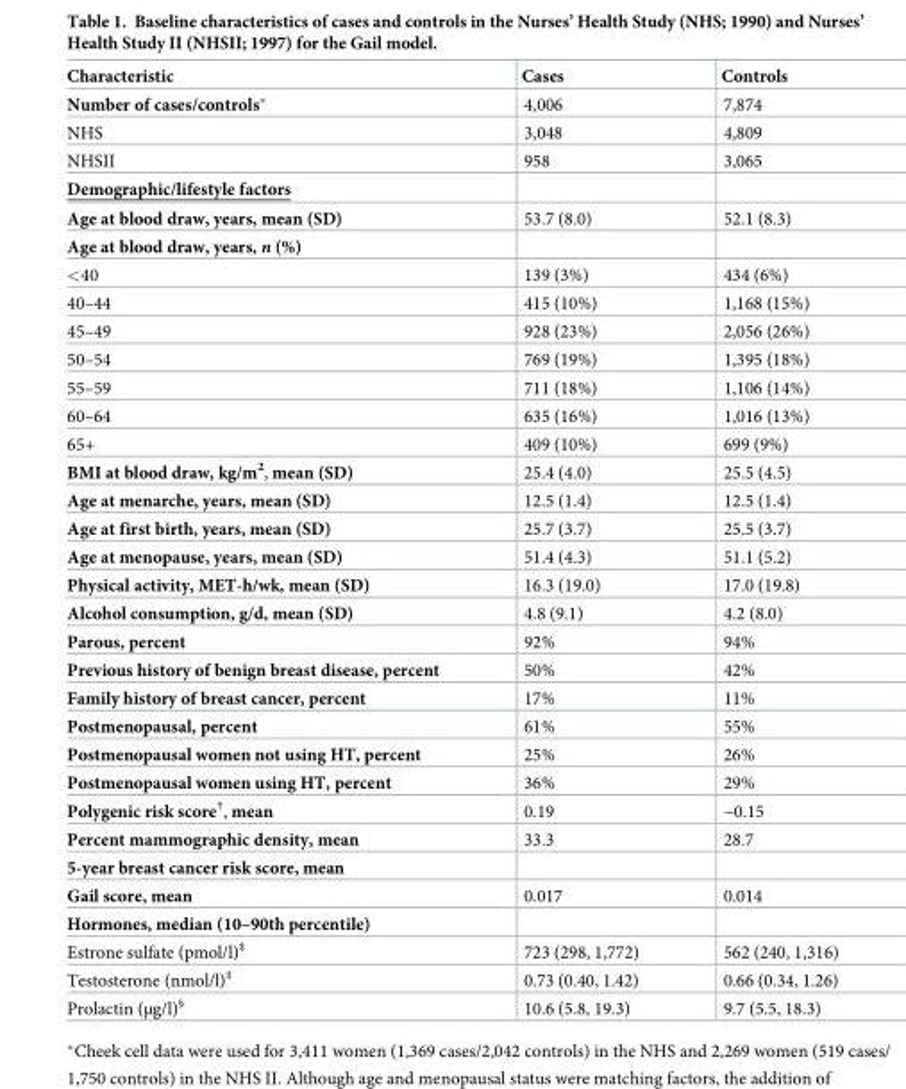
<table><thead><tr><td>Characteristic</td><td>Cases</td><td>Controls</td></tr></thead><tbody><tr><td>Number of cases/controls*</td><td>4,006</td><td>7,874</td></tr><tr><td>NHS</td><td>3,048</td><td>4,809</td></tr><tr><td>NHSII</td><td>958</td><td>3,065</td></tr><tr><td colspan="3">Demographic/lifestyle factors</td></tr><tr><td>Age at blood draw, years, mean (SD)</td><td>53.7 (8.0)</td><td>52.1 (8.3)</td></tr><tr><td colspan="3">Age at blood draw, years, n (%)</td></tr><tr><td>&lt;40</td><td>139 (3%)</td><td>434 (6%)</td></tr><tr><td>40–44</td><td>415 (10%)</td><td>1,168 (15%)</td></tr><tr><td>45–49</td><td>928 (23%)</td><td>2,056 (26%)</td></tr><tr><td>50–54</td><td>769 (19%)</td><td>1,395 (18%)</td></tr><tr><td>55–59</td><td>711 (18%)</td><td>1,106 (14%)</td></tr><tr><td>60–64</td><td>635 (16%)</td><td>1,016 (13%)</td></tr><tr><td>65+</td><td>409 (10%)</td><td>699 (9%)</td></tr><tr><td>BMI at blood draw, kg/m<sup>2</sup>, mean (SD)</td><td>25.4 (4.0)</td><td>25.5 (4.5)</td></tr><tr><td>Age at menarche, years, mean (SD)</td><td>12.5 (1.4)</td><td>12.5 (1.4)</td></tr><tr><td>Age at first birth, years, mean (SD)</td><td>25.7 (3.7)</td><td>25.5 (3.7)</td></tr><tr><td>Age at menopause, years, mean (SD)</td><td>51.4 (4.3)</td><td>51.1 (5.2)</td></tr><tr><td>Physical activity, MET-h/wk, mean (SD)</td><td>16.3 (19.0)</td><td>17.0 (19.8)</td></tr><tr><td>Alcohol consumption, g/d, mean (SD)</td><td>4.8 (9.1)</td><td>4.2 (8.0)</td></tr><tr><td>Parous, percent</td><td>92%</td><td>94%</td></tr><tr><td>Previous history of benign breast disease, percent</td><td>50%</td><td>42%</td></tr><tr><td>Family history of breast cancer, percent</td><td>17%</td><td>11%</td></tr><tr><td>Postmenopausal, percent</td><td>61%</td><td>55%</td></tr><tr><td>Postmenopausal women not using HT, percent</td><td>25%</td><td>26%</td></tr><tr><td>Postmenopausal women using HT, percent</td><td>36%</td><td>29%</td></tr><tr><td>Polygenic risk score<sup>†</sup>, mean</td><td>0.19</td><td>−0.15</td></tr><tr><td>Percent mammographic density, mean</td><td>33.3</td><td>28.7</td></tr><tr><td colspan="3">5-year breast cancer risk score, mean</td></tr><tr><td>Gail score, mean</td><td>0.017</td><td>0.014</td></tr><tr><td colspan="3">Hormones, median (10–90th percentile)</td></tr><tr><td>Estrone sulfate (pmol/l)<sup>‡</sup></td><td>723 (298, 1,772)</td><td>562 (240, 1,316)</td></tr><tr><td>Testosterone (nmol/l)<sup>‡</sup></td><td>0.73 (0.40, 1.42)</td><td>0.66 (0.34, 1.26)</td></tr><tr><td>Prolactin (μg/l)<sup>§</sup></td><td>10.6 (5.8, 19.3)</td><td>9.7 (5.5, 18.3)</td></tr></tbody></table>